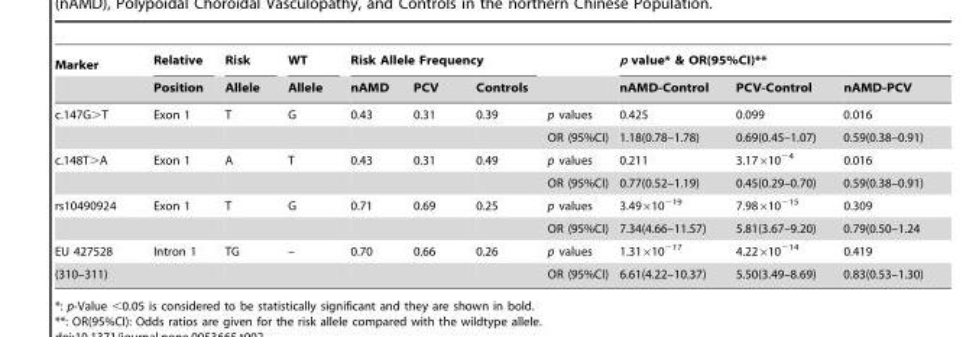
<table><thead><tr><td rowspan="2">Marker</td><td rowspan="2">Relative Position</td><td rowspan="2">Risk Allele</td><td rowspan="2">WT Allele</td><td colspan="3">Risk Allele Frequency</td><td rowspan="2"></td><td colspan="3">p value* &amp; OR(95%CI)**</td></tr><tr><td>nAMD</td><td>PCV</td><td>Controls</td><td>nAMD-Control</td><td>PCV-Control</td><td>nAMD-PCV</td></tr></thead><tbody><tr><td rowspan="2">c.147G&gt;T</td><td>Exon 1</td><td>T</td><td>G</td><td>0.43</td><td>0.31</td><td>0.39</td><td>p values</td><td>0.425</td><td>0.099</td><td>0.016</td></tr><tr><td></td><td></td><td></td><td></td><td></td><td></td><td>OR (95%CI)</td><td>1.18(0.78–1.78)</td><td>0.69(0.45–1.07)</td><td>0.59(0.38–0.91)</td></tr><tr><td rowspan="2">c.148T&gt;A</td><td>Exon 1</td><td>A</td><td>T</td><td>0.43</td><td>0.31</td><td>0.49</td><td>p values</td><td>0.211</td><td>3.17×10<sup>−4</sup></td><td>0.016</td></tr><tr><td></td><td></td><td></td><td></td><td></td><td></td><td>OR (95%CI)</td><td>0.77(0.52–1.19)</td><td>0.45(0.29–0.70)</td><td>0.59(0.38–0.91)</td></tr><tr><td rowspan="2">rs10490924</td><td>Exon 1</td><td>T</td><td>G</td><td>0.71</td><td>0.69</td><td>0.25</td><td>p values</td><td>3.49×10<sup>−19</sup></td><td>7.98×10<sup>−15</sup></td><td>0.309</td></tr><tr><td></td><td></td><td></td><td></td><td></td><td></td><td>OR (95%CI)</td><td>7.34(4.66–11.57)</td><td>5.81(3.67–9.20)</td><td>0.79(0.50–1.24</td></tr><tr><td>EU 427528</td><td>Intron 1</td><td>TG</td><td>–</td><td>0.70</td><td>0.66</td><td>0.26</td><td>p values</td><td>1.31×10<sup>−17</sup></td><td>4.22×10<sup>−14</sup></td><td>0.419</td></tr><tr><td>(310–311)</td><td></td><td></td><td></td><td></td><td></td><td></td><td>OR (95%CI)</td><td>6.61(4.22–10.37)</td><td>5.50(3.49–8.69)</td><td>0.83(0.53–1.30)</td></tr></tbody></table>